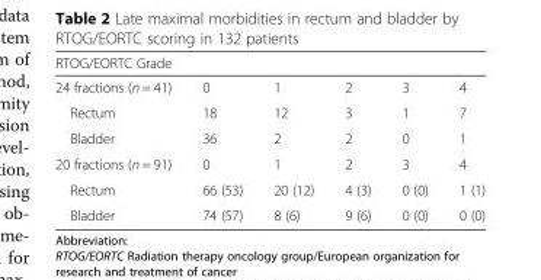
<table><thead><tr><td colspan="6">RTOG/EORTC Grade</td></tr><tr><td>24 fractions (n = 41)</td><td>0</td><td>1</td><td>2</td><td>3</td><td>4</td></tr></thead><tbody><tr><td>Rectum</td><td>18</td><td>12</td><td>3</td><td>1</td><td>7</td></tr><tr><td>Bladder</td><td>36</td><td>2</td><td>2</td><td>0</td><td>1</td></tr><tr><td>20 fractions (n = 91)</td><td>0</td><td>1</td><td>2</td><td>3</td><td>4</td></tr><tr><td>Rectum</td><td>66 (53)</td><td>20 (12)</td><td>4 (3)</td><td>0 (0)</td><td>1 (1)</td></tr><tr><td>Bladder</td><td>74 (57)</td><td>8 (6)</td><td>9 (6)</td><td>0 (0)</td><td>0 (0)</td></tr></tbody></table>